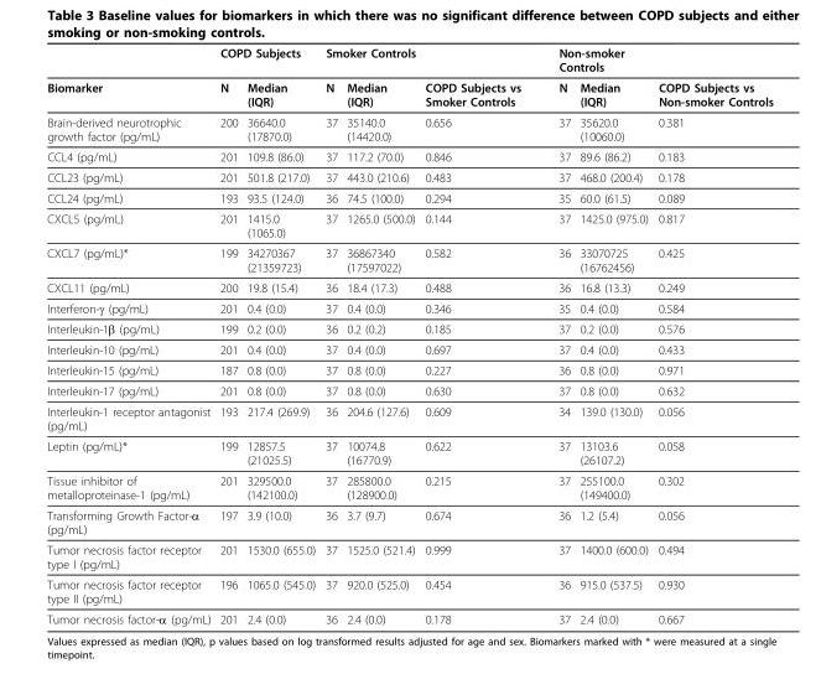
<table><thead><tr><td rowspan="2">Biomarker</td><td colspan="2">COPD Subjects</td><td colspan="2">Smoker Controls</td><td rowspan="2">COPD Subjects vs Smoker Controls</td><td colspan="2">Non-smoker Controls</td><td rowspan="2">COPD Subjects vs Non-smoker Controls</td></tr><tr><td>N</td><td>Median (IQR)</td><td>N</td><td>Median (IQR)</td><td>N</td><td>Median (IQR)</td></tr></thead><tbody><tr><td>Brain-derived neurotrophic growth factor (pg/mL)</td><td>200</td><td>36640.0 (17870.0)</td><td>37</td><td>35140.0 (14420.0)</td><td>0.656</td><td>37</td><td>35620.0 (10060.0)</td><td>0.381</td></tr><tr><td>CCL4 (pg/mL)</td><td>201</td><td>109.8 (86.0)</td><td>37</td><td>117.2 (70.0)</td><td>0.846</td><td>37</td><td>89.6 (86.2)</td><td>0.183</td></tr><tr><td>CCL23 (pg/mL)</td><td>201</td><td>501.8 (217.0)</td><td>37</td><td>443.0 (210.6)</td><td>0.483</td><td>37</td><td>468.0 (200.4)</td><td>0.178</td></tr><tr><td>CCL24 (pg/mL)</td><td>193</td><td>93.5 (124.0)</td><td>36</td><td>74.5 (100.0)</td><td>0.294</td><td>35</td><td>60.0 (61.5)</td><td>0.089</td></tr><tr><td>CXCL5 (pg/mL)</td><td>201</td><td>1415.0 (1065.0)</td><td>37</td><td>1265.0 (500.0)</td><td>0.144</td><td>37</td><td>1425.0 (975.0)</td><td>0.817</td></tr><tr><td>CXCL7 (pg/mL)*</td><td>199</td><td>34270367 (21359723)</td><td>37</td><td>36867340 (17597022)</td><td>0.582</td><td>36</td><td>33070725 (16762456)</td><td>0.425</td></tr><tr><td>CXCL11 (pg/mL)</td><td>200</td><td>19.8 (15.4)</td><td>36</td><td>18.4 (17.3)</td><td>0.488</td><td>36</td><td>16.8 (13.3)</td><td>0.249</td></tr><tr><td>Interferon-γ (pg/mL)</td><td>201</td><td>0.4 (0.0)</td><td>37</td><td>0.4 (0.0)</td><td>0.346</td><td>35</td><td>0.4 (0.0)</td><td>0.584</td></tr><tr><td>Interleukin-1β (pg/mL)</td><td>199</td><td>0.2 (0.0)</td><td>36</td><td>0.2 (0.2)</td><td>0.185</td><td>37</td><td>0.2 (0.0)</td><td>0.576</td></tr><tr><td>Interleukin-10 (pg/mL)</td><td>201</td><td>0.4 (0.0)</td><td>37</td><td>0.4 (0.0)</td><td>0.697</td><td>37</td><td>0.4 (0.0)</td><td>0.433</td></tr><tr><td>Interleukin-15 (pg/mL)</td><td>187</td><td>0.8 (0.0)</td><td>37</td><td>0.8 (0.0)</td><td>0.227</td><td>36</td><td>0.8 (0.0)</td><td>0.971</td></tr><tr><td>Interleukin-17 (pg/mL)</td><td>201</td><td>0.8 (0.0)</td><td>37</td><td>0.8 (0.0)</td><td>0.630</td><td>37</td><td>0.8 (0.0)</td><td>0.632</td></tr><tr><td>Interleukin-1 receptor antagonist (pg/mL)</td><td>193</td><td>217.4 (269.9)</td><td>36</td><td>204.6 (127.6)</td><td>0.609</td><td>34</td><td>139.0 (130.0)</td><td>0.056</td></tr><tr><td>Leptin (pg/mL)*</td><td>199</td><td>12857.5 (21025.5)</td><td>37</td><td>10074.8 (16770.9)</td><td>0.622</td><td>37</td><td>13103.6 (26107.2)</td><td>0.058</td></tr><tr><td>Tissue inhibitor of metalloproteinase-1 (pg/mL)</td><td>201</td><td>329500.0 (142100.0)</td><td>37</td><td>285800.0 (128900.0)</td><td>0.215</td><td>37</td><td>255100.0 (149400.0)</td><td>0.302</td></tr><tr><td>Transforming Growth Factor-α (pg/mL)</td><td>197</td><td>3.9 (10.0)</td><td>36</td><td>3.7 (9.7)</td><td>0.674</td><td>36</td><td>1.2 (5.4)</td><td>0.056</td></tr><tr><td>Tumor necrosis factor receptor type I (pg/mL)</td><td>201</td><td>1530.0 (655.0)</td><td>37</td><td>1525.0 (521.4)</td><td>0.999</td><td>37</td><td>1400.0 (600.0)</td><td>0.494</td></tr><tr><td>Tumor necrosis factor receptor type II (pg/mL)</td><td>196</td><td>1065.0 (545.0)</td><td>37</td><td>920.0 (525.0)</td><td>0.454</td><td>36</td><td>915.0 (537.5)</td><td>0.930</td></tr><tr><td>Tumor necrosis factor-α (pg/mL)</td><td>201</td><td>2.4 (0.0)</td><td>36</td><td>2.4 (0.0)</td><td>0.178</td><td>37</td><td>2.4 (0.0)</td><td>0.667</td></tr></tbody></table>